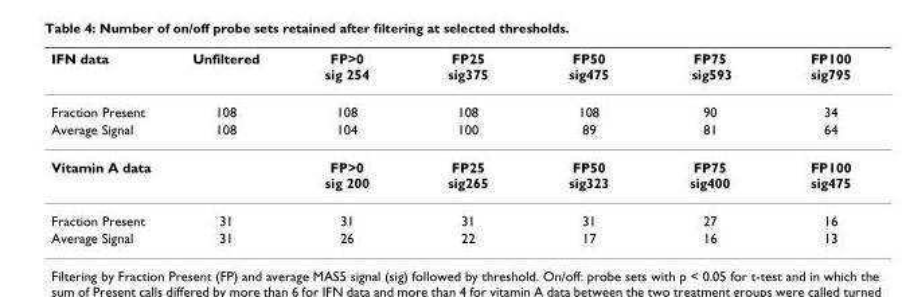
<table><thead><tr><td>IFN data</td><td>Unfiltered</td><td>FP&gt;0 sig 254</td><td>FP25 sig375</td><td>FP50 sig475</td><td>FP75 sig593</td><td>FP100 sig795</td></tr></thead><tbody><tr><td>Fraction Present</td><td>108</td><td>108</td><td>108</td><td>108</td><td>90</td><td>34</td></tr><tr><td>Average Signal</td><td>108</td><td>104</td><td>100</td><td>89</td><td>81</td><td>64</td></tr><tr><td>Vitamin A data</td><td></td><td>FP&gt;0 sig 200</td><td>FP25 sig265</td><td>FP50 sig323</td><td>FP75 sig400</td><td>FP100 sig475</td></tr><tr><td>Fraction Present</td><td>31</td><td>31</td><td>31</td><td>31</td><td>27</td><td>16</td></tr><tr><td>Average Signal</td><td>31</td><td>26</td><td>22</td><td>17</td><td>16</td><td>13</td></tr></tbody></table>